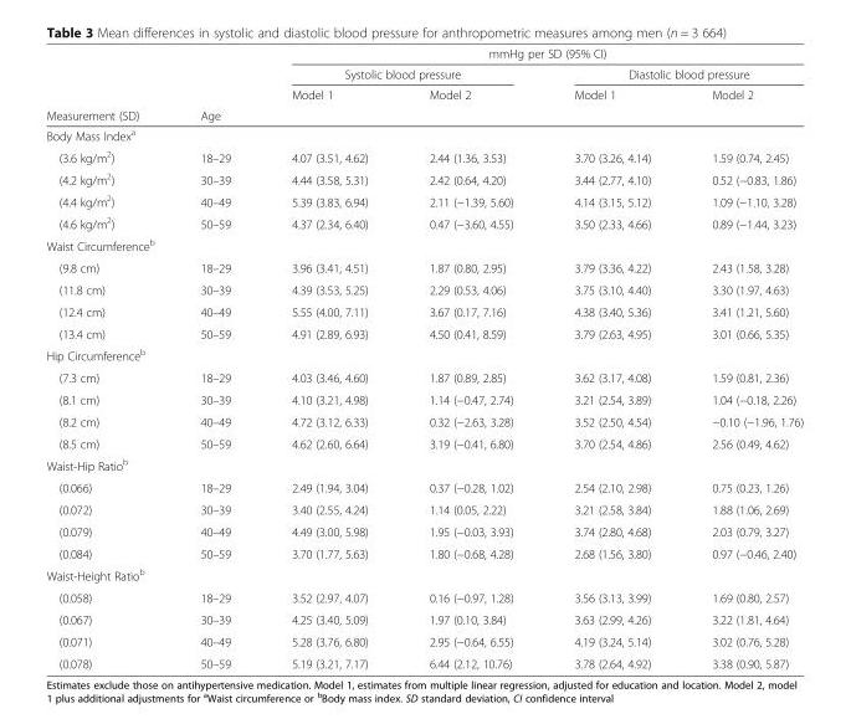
<table><thead><tr><td rowspan="4">Measurement (SD)</td><td rowspan="4">Age</td><td colspan="4">mmHg per SD (95% CI)</td></tr><tr><td colspan="2">Systolic blood pressure</td><td colspan="2">Diastolic blood pressure</td></tr><tr><td rowspan="2">Model 1</td><td rowspan="2">Model 2</td><td rowspan="2">Model 1</td><td rowspan="2">Model 2</td></tr><tr></tr></thead><tbody><tr><td colspan="6">Body Mass Index<sup>a</sup></td></tr><tr><td>(3.6 kg/m<sup>2</sup>)</td><td>18–29</td><td>4.07 (3.51, 4.62)</td><td>2.44 (1.36, 3.53)</td><td>3.70 (3.26, 4.14)</td><td>1.59 (0.74, 2.45)</td></tr><tr><td>(4.2 kg/m<sup>2</sup>)</td><td>30–39</td><td>4.44 (3.58, 5.31)</td><td>2.42 (0.64, 4.20)</td><td>3.44 (2.77, 4.10)</td><td>0.52 (−0.83, 1.86)</td></tr><tr><td>(4.4 kg/m<sup>2</sup>)</td><td>40–49</td><td>5.39 (3.83, 6.94)</td><td>2.11 (−1.39, 5.60)</td><td>4.14 (3.15, 5.12)</td><td>1.09 (−1.10, 3.28)</td></tr><tr><td>(4.6 kg/m<sup>2</sup>)</td><td>50–59</td><td>4.37 (2.34, 6.40)</td><td>0.47 (−3.60, 4.55)</td><td>3.50 (2.33, 4.66)</td><td>0.89 (−1.44, 3.23)</td></tr><tr><td colspan="6">Waist Circumference<sup>b</sup></td></tr><tr><td>(9.8 cm)</td><td>18–29</td><td>3.96 (3.41, 4.51)</td><td>1.87 (0.80, 2.95)</td><td>3.79 (3.36, 4.22)</td><td>2.43 (1.58, 3.28)</td></tr><tr><td>(11.8 cm)</td><td>30–39</td><td>4.39 (3.53, 5.25)</td><td>2.29 (0.53, 4.06)</td><td>3.75 (3.10, 4.40)</td><td>3.30 (1.97, 4.63)</td></tr><tr><td>(12.4 cm)</td><td>40–49</td><td>5.55 (4.00, 7.11)</td><td>3.67 (0.17, 7.16)</td><td>4.38 (3.40, 5.36)</td><td>3.41 (1.21, 5.60)</td></tr><tr><td>(13.4 cm)</td><td>50–59</td><td>4.91 (2.89, 6.93)</td><td>4.50 (0.41, 8.59)</td><td>3.79 (2.63, 4.95)</td><td>3.01 (0.66, 5.35)</td></tr><tr><td colspan="6">Hip Circumference<sup>b</sup></td></tr><tr><td>(7.3 cm)</td><td>18–29</td><td>4.03 (3.46, 4.60)</td><td>1.87 (0.89, 2.85)</td><td>3.62 (3.17, 4.08)</td><td>1.59 (0.81, 2.36)</td></tr><tr><td>(8.1 cm)</td><td>30–39</td><td>4.10 (3.21, 4.98)</td><td>1.14 (−0.47, 2.74)</td><td>3.21 (2.54, 3.89)</td><td>1.04 (−0.18, 2.26)</td></tr><tr><td>(8.2 cm)</td><td>40–49</td><td>4.72 (3.12, 6.33)</td><td>0.32 (−2.63, 3.28)</td><td>3.52 (2.50, 4.54)</td><td>−0.10 (−1.96, 1.76)</td></tr><tr><td>(8.5 cm)</td><td>50–59</td><td>4.62 (2.60, 6.64)</td><td>3.19 (−0.41, 6.80)</td><td>3.70 (2.54, 4.86)</td><td>2.56 (0.49, 4.62)</td></tr><tr><td colspan="6">Waist-Hip Ratio<sup>b</sup></td></tr><tr><td>(0.066)</td><td>18–29</td><td>2.49 (1.94, 3.04)</td><td>0.37 (−0.28, 1.02)</td><td>2.54 (2.10, 2.98)</td><td>0.75 (0.23, 1.26)</td></tr><tr><td>(0.072)</td><td>30–39</td><td>3.40 (2.55, 4.24)</td><td>1.14 (0.05, 2.22)</td><td>3.21 (2.58, 3.84)</td><td>1.88 (1.06, 2.69)</td></tr><tr><td>(0.079)</td><td>40–49</td><td>4.49 (3.00, 5.98)</td><td>1.95 (−0.03, 3.93)</td><td>3.74 (2.80, 4.68)</td><td>2.03 (0.79, 3.27)</td></tr><tr><td>(0.084)</td><td>50–59</td><td>3.70 (1.77, 5.63)</td><td>1.80 (−0.68, 4.28)</td><td>2.68 (1.56, 3.80)</td><td>0.97 (−0.46, 2.40)</td></tr><tr><td colspan="6">Waist-Height Ratio<sup>b</sup></td></tr><tr><td>(0.058)</td><td>18–29</td><td>3.52 (2.97, 4.07)</td><td>0.16 (−0.97, 1.28)</td><td>3.56 (3.13, 3.99)</td><td>1.69 (0.80, 2.57)</td></tr><tr><td>(0.067)</td><td>30–39</td><td>4.25 (3.40, 5.09)</td><td>1.97 (0.10, 3.84)</td><td>3.63 (2.99, 4.26)</td><td>3.22 (1.81, 4.64)</td></tr><tr><td>(0.071)</td><td>40–49</td><td>5.28 (3.76, 6.80)</td><td>2.95 (−0.64, 6.55)</td><td>4.19 (3.24, 5.14)</td><td>3.02 (0.76, 5.28)</td></tr><tr><td>(0.078)</td><td>50–59</td><td>5.19 (3.21, 7.17)</td><td>6.44 (2.12, 10.76)</td><td>3.78 (2.64, 4.92)</td><td>3.38 (0.90, 5.87)</td></tr></tbody></table>